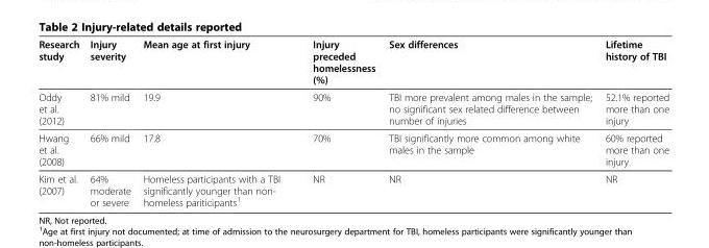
<table><thead><tr><td>Research study</td><td>Injury severity</td><td>Mean age at first injury</td><td>Injury preceded homelessness (%)</td><td>Sex differences</td><td>Lifetime history of TBI</td></tr></thead><tbody><tr><td>Oddy et al. (2012)</td><td>81% mild</td><td>19.9</td><td>90%</td><td>TBI more prevalent among males in the sample; no significant sex related difference between number of injuries</td><td>52.1% reported more than one injury</td></tr><tr><td>Hwang et al. (2008)</td><td>66% mild</td><td>17.8</td><td>70%</td><td>TBI significantly more common among white males in the sample</td><td>60% reported more than one injury</td></tr><tr><td>Kim et al. (2007)</td><td>64% moderate or severe</td><td>Homeless participants with a TBI significantly younger than non- homeless pariticipants<sup>1</sup></td><td>NR</td><td>NR</td><td>NR</td></tr></tbody></table>